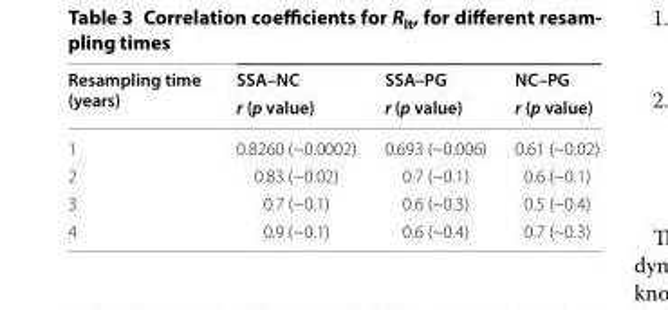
<table><thead><tr><td rowspan="2">Resampling time (years)</td><td rowspan="2">SSA–NC r (p value)</td><td rowspan="2">SSA–PG r (p value)</td><td rowspan="2">NC–PG r (p value)</td></tr><tr></tr></thead><tbody><tr><td>1</td><td>0.8260 (~0.0002)</td><td>0.693 (~0.006)</td><td>0.61 (~0.02)</td></tr><tr><td>2</td><td>0.83 (~0.02)</td><td>0.7 (~0.1)</td><td>0.6 (~0.1)</td></tr><tr><td>3</td><td>0.7 (~0.1)</td><td>0.6 (~0.3)</td><td>0.5 (~0.4)</td></tr><tr><td>4</td><td>0.9 (~0.1)</td><td>0.6 (~0.4)</td><td>0.7 (~0.3)</td></tr></tbody></table>